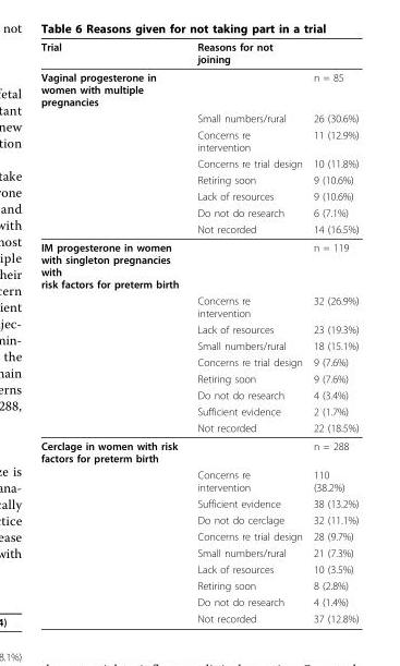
<table><thead><tr><td>Trial</td><td>Reasons for not joining</td><td></td></tr></thead><tbody><tr><td rowspan="8">Vaginal progesterone in women with multiple pregnancies</td><td></td><td>n = 85</td></tr><tr><td>Small numbers/rural</td><td>26 (30.6%)</td></tr><tr><td>Concerns re intervention</td><td>11 (12.9%)</td></tr><tr><td>Concerns re trial design</td><td>10 (11.8%)</td></tr><tr><td>Retiring soon</td><td>9 (10.6%)</td></tr><tr><td>Lack of resources</td><td>9 (10.6%)</td></tr><tr><td>Do not do research</td><td>6 (7.1%)</td></tr><tr><td>Not recorded</td><td>14 (16.5%)</td></tr><tr><td rowspan="9">IM progesterone in women with singleton pregnancies with risk factors for preterm birth</td><td></td><td>n = 119</td></tr><tr><td>Concerns re intervention</td><td>32 (26.9%)</td></tr><tr><td>Lack of resources</td><td>23 (19.3%)</td></tr><tr><td>Small numbers/rural</td><td>18 (15.1%)</td></tr><tr><td>Concerns re trial design</td><td>9 (7.6%)</td></tr><tr><td>Retiring soon</td><td>9 (7.6%)</td></tr><tr><td>Do not do research</td><td>4 (3.4%)</td></tr><tr><td>Sufficient evidence</td><td>2 (1.7%)</td></tr><tr><td>Not recorded</td><td>22 (18.5%)</td></tr><tr><td rowspan="10">Cerclage in women with risk factors for preterm birth</td><td></td><td>n = 288</td></tr><tr><td>Concerns re intervention</td><td>110 (38.2%)</td></tr><tr><td>Sufficient evidence</td><td>38 (13.2%)</td></tr><tr><td>Do not do cerclage</td><td>32 (11.1%)</td></tr><tr><td>Concerns re trial design</td><td>28 (9.7%)</td></tr><tr><td>Small numbers/rural</td><td>21 (7.3%)</td></tr><tr><td>Lack of resources</td><td>10 (3.5%)</td></tr><tr><td>Retiring soon</td><td>8 (2.8%)</td></tr><tr><td>Do not do research</td><td>4 (1.4%)</td></tr><tr><td>Not recorded</td><td>37 (12.8%)</td></tr></tbody></table>